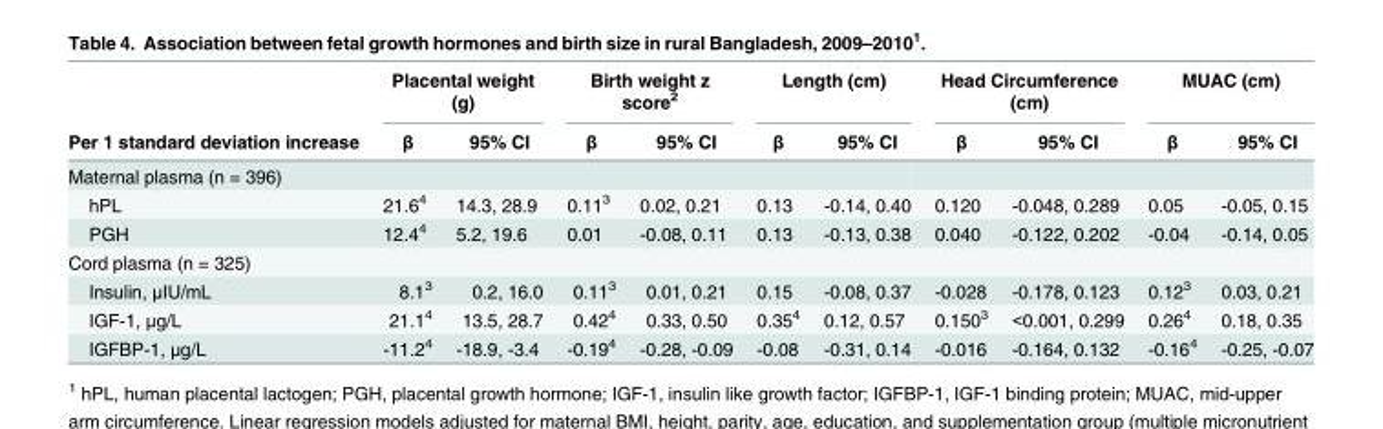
<table><thead><tr><td rowspan="2">Per 1 standard deviation increase</td><td colspan="2">Placental weight (g)</td><td colspan="2">Birth weight z score<sup>2</sup></td><td colspan="2">Length (cm)</td><td colspan="2">Head Circumference (cm)</td><td colspan="2">MUAC (cm)</td></tr><tr><td>β</td><td>95% CI</td><td>β</td><td>95% CI</td><td>β</td><td>95% CI</td><td>β</td><td>95% CI</td><td>β</td><td>95% CI</td></tr></thead><tbody><tr><td colspan="11">Maternal plasma (n = 396)</td></tr><tr><td>hPL</td><td>21.6<sup>4</sup></td><td>14.3, 28.9</td><td>0.11<sup>3</sup></td><td>0.02, 0.21</td><td>0.13</td><td>-0.14, 0.40</td><td>0.120</td><td>-0.048, 0.289</td><td>0.05</td><td>-0.05, 0.15</td></tr><tr><td>PGH</td><td>12.4<sup>4</sup></td><td>5.2, 19.6</td><td>0.01</td><td>-0.08, 0.11</td><td>0.13</td><td>-0.13, 0.38</td><td>0.040</td><td>-0.122, 0.202</td><td>-0.04</td><td>-0.14, 0.05</td></tr><tr><td colspan="11">Cord plasma (n = 325)</td></tr><tr><td>Insulin, μIU/mL</td><td>8.1<sup>3</sup></td><td>0.2, 16.0</td><td>0.11<sup>3</sup></td><td>0.01, 0.21</td><td>0.15</td><td>-0.08, 0.37</td><td>-0.028</td><td>-0.178, 0.123</td><td>0.12<sup>3</sup></td><td>0.03, 0.21</td></tr><tr><td>IGF-1, μg/L</td><td>21.1<sup>4</sup></td><td>13.5, 28.7</td><td>0.42<sup>4</sup></td><td>0.33, 0.50</td><td>0.35<sup>4</sup></td><td>0.12, 0.57</td><td>0.150<sup>3</sup></td><td>&lt;0.001, 0.299</td><td>0.26<sup>4</sup></td><td>0.18, 0.35</td></tr><tr><td>IGFBP-1, μg/L</td><td>-11.2<sup>4</sup></td><td>-18.9, -3.4</td><td>-0.19<sup>4</sup></td><td>-0.28, -0.09</td><td>-0.08</td><td>-0.31, 0.14</td><td>-0.016</td><td>-0.164, 0.132</td><td>-0.16<sup>4</sup></td><td>-0.25, -0.07</td></tr></tbody></table>